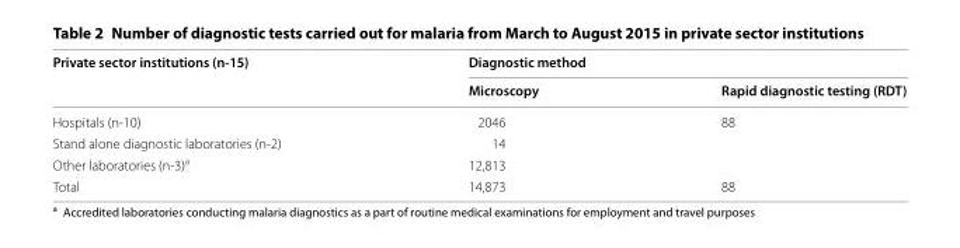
<table><thead><tr><td rowspan="2">Private sector institutions (n-15)</td><td colspan="2">Diagnostic method</td></tr><tr><td>Microscopy</td><td>Rapid diagnostic testing (RDT)</td></tr></thead><tbody><tr><td>Hospitals (n-10)</td><td>2046</td><td>88</td></tr><tr><td>Stand alone diagnostic laboratories (n-2)</td><td>14</td><td></td></tr><tr><td>Other laboratories (n-3)<sup>a</sup></td><td>12,813</td><td></td></tr><tr><td>Total</td><td>14,873</td><td>88</td></tr></tbody></table>